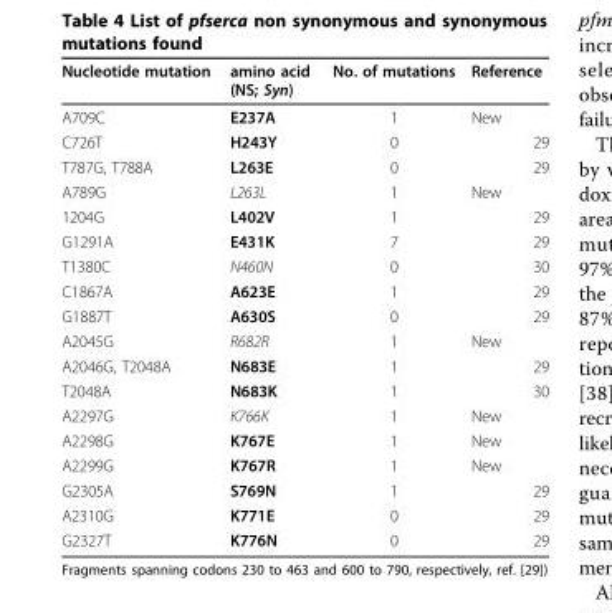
<table><thead><tr><td>Nucleotide mutation</td><td>amino acid (NS; Syn)</td><td>No. of mutations</td><td>Reference</td></tr></thead><tbody><tr><td>A709C</td><td>E237A</td><td>1</td><td>New</td></tr><tr><td>C726T</td><td>H243Y</td><td>0</td><td>29</td></tr><tr><td>T787G, T788A</td><td>L263E</td><td>0</td><td>29</td></tr><tr><td>A789G</td><td>L263L</td><td>1</td><td>New</td></tr><tr><td>1204G</td><td>L402V</td><td>1</td><td>29</td></tr><tr><td>G1291A</td><td>E431K</td><td>7</td><td>29</td></tr><tr><td>T1380C</td><td>N460N</td><td>0</td><td>30</td></tr><tr><td>C1867A</td><td>A623E</td><td>1</td><td>29</td></tr><tr><td>G1887T</td><td>A630S</td><td>0</td><td>29</td></tr><tr><td>A2045G</td><td>R682R</td><td>1</td><td>New</td></tr><tr><td>A2046G, T2048A</td><td>N683E</td><td>1</td><td>29</td></tr><tr><td>T2048A</td><td>N683K</td><td>1</td><td>30</td></tr><tr><td>A2297G</td><td>K766K</td><td>1</td><td>New</td></tr><tr><td>A2298G</td><td>K767E</td><td>1</td><td>New</td></tr><tr><td>A2299G</td><td>K767R</td><td>1</td><td>New</td></tr><tr><td>G2305A</td><td>S769N</td><td>1</td><td>29</td></tr><tr><td>A2310G</td><td>K771E</td><td>0</td><td>29</td></tr><tr><td>G2327T</td><td>K776N</td><td>0</td><td>29</td></tr></tbody></table>